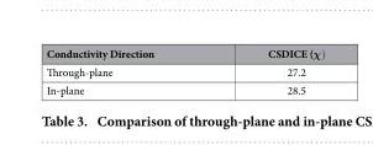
<table><thead><tr><td>Conductivity Direction</td><td>CSDICE (χ)</td></tr></thead><tbody><tr><td>Through-plane</td><td>27.2</td></tr><tr><td>In-plane</td><td>28.5</td></tr></tbody></table>